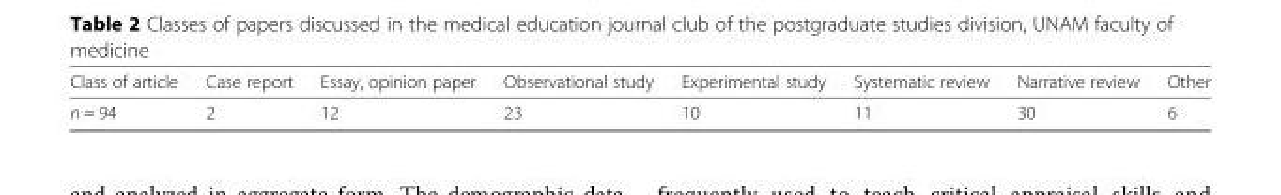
<table><thead><tr><td>Class of article</td><td>Case report</td><td>Essay, opinion paper</td><td>Observational study</td><td>Experimental study</td><td>Systematic review</td><td>Narrative review</td><td>Other</td></tr></thead><tbody><tr><td>n = 94</td><td>2</td><td>12</td><td>23</td><td>10</td><td>11</td><td>30</td><td>6</td></tr></tbody></table>